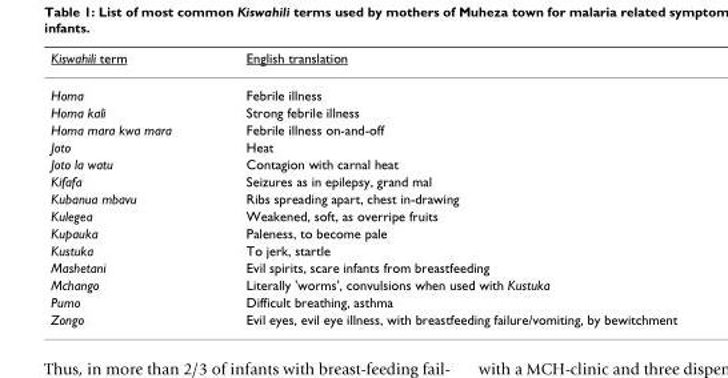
<table><thead><tr><td>Kiswahili term</td><td>English translation</td></tr></thead><tbody><tr><td>Homa</td><td>Febrile illness</td></tr><tr><td>Homa kali</td><td>Strong febrile illness</td></tr><tr><td>Homa mara kwa mara</td><td>Febrile illness on-and-off</td></tr><tr><td>Joto</td><td>Heat</td></tr><tr><td>Joto la watu</td><td>Contagion with carnal heat</td></tr><tr><td>Kifafa</td><td>Seizures as in epilepsy, grand mal</td></tr><tr><td>Kubanua mbavu</td><td>Ribs spreading apart, chest in-drawing</td></tr><tr><td>Kulegea</td><td>Weakened, soft, as overripe fruits</td></tr><tr><td>Kupauka</td><td>Paleness, to become pale</td></tr><tr><td>Kustuka</td><td>To jerk, startle</td></tr><tr><td>Mashetani</td><td>Evil spirits, scare infants from breastfeeding</td></tr><tr><td>Mchango</td><td>Literally &#x27;worms&#x27;, convulsions when used with Kustuka</td></tr><tr><td>Pumo</td><td>Difficult breathing, asthma</td></tr><tr><td>Zongo</td><td>Evil eyes, evil eye illness, with breastfeeding failure/vomiting, by bewitchment</td></tr></tbody></table>